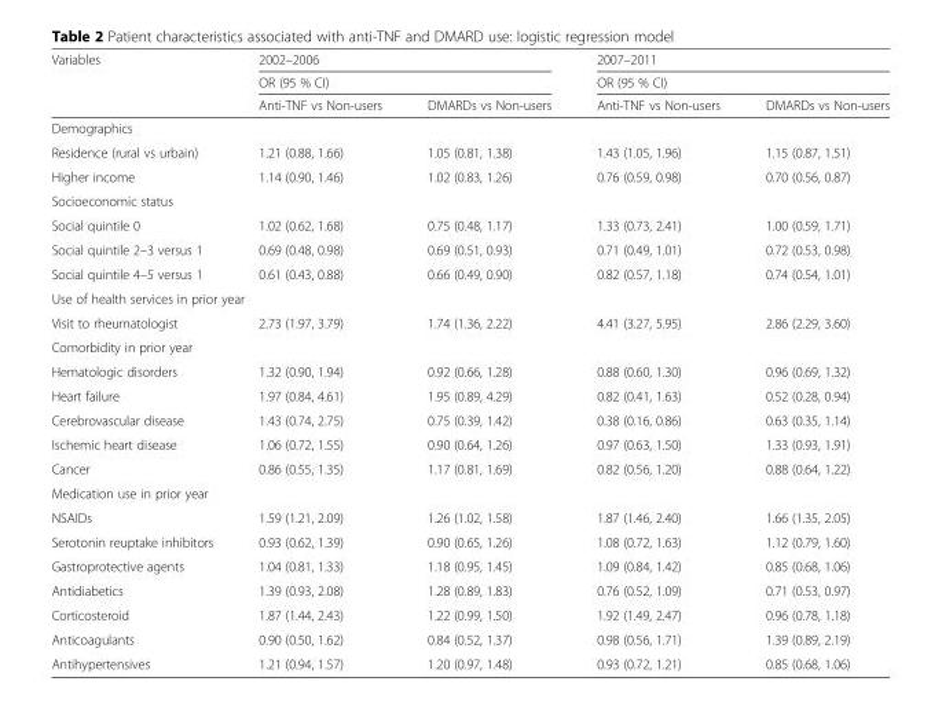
<table><thead><tr><td rowspan="3">Variables</td><td rowspan="2" colspan="2">2002–2006 OR (95 % CI)</td><td rowspan="2" colspan="2">2007–2011 OR (95 % CI)</td></tr><tr></tr><tr><td>Anti-TNF vs Non-users</td><td>DMARDs vs Non-users</td><td>Anti-TNF vs Non-users</td><td>DMARDs vs Non-users</td></tr></thead><tbody><tr><td colspan="5">Demographics</td></tr><tr><td>Residence (rural vs urbain)</td><td>1.21 (0.88, 1.66)</td><td>1.05 (0.81, 1.38)</td><td>1.43 (1.05, 1.96)</td><td>1.15 (0.87, 1.51)</td></tr><tr><td>Higher income</td><td>1.14 (0.90, 1.46)</td><td>1.02 (0.83, 1.26)</td><td>0.76 (0.59, 0.98)</td><td>0.70 (0.56, 0.87)</td></tr><tr><td colspan="5">Socioeconomic status</td></tr><tr><td>Social quintile 0</td><td>1.02 (0.62, 1.68)</td><td>0.75 (0.48, 1.17)</td><td>1.33 (0.73, 2.41)</td><td>1.00 (0.59, 1.71)</td></tr><tr><td>Social quintile 2–3 versus 1</td><td>0.69 (0.48, 0.98)</td><td>0.69 (0.51, 0.93)</td><td>0.71 (0.49, 1.01)</td><td>0.72 (0.53, 0.98)</td></tr><tr><td>Social quintile 4–5 versus 1</td><td>0.61 (0.43, 0.88)</td><td>0.66 (0.49, 0.90)</td><td>0.82 (0.57, 1.18)</td><td>0.74 (0.54, 1.01)</td></tr><tr><td colspan="5">Use of health services in prior year</td></tr><tr><td>Visit to rheumatologist</td><td>2.73 (1.97, 3.79)</td><td>1.74 (1.36, 2.22)</td><td>4.41 (3.27, 5.95)</td><td>2.86 (2.29, 3.60)</td></tr><tr><td colspan="5">Comorbidity in prior year</td></tr><tr><td>Hematologic disorders</td><td>1.32 (0.90, 1.94)</td><td>0.92 (0.66, 1.28)</td><td>0.88 (0.60, 1.30)</td><td>0.96 (0.69, 1.32)</td></tr><tr><td>Heart failure</td><td>1.97 (0.84, 4.61)</td><td>1.95 (0.89, 4.29)</td><td>0.82 (0.41, 1.63)</td><td>0.52 (0.28, 0.94)</td></tr><tr><td>Cerebrovascular disease</td><td>1.43 (0.74, 2.75)</td><td>0.75 (0.39, 1.42)</td><td>0.38 (0.16, 0.86)</td><td>0.63 (0.35, 1.14)</td></tr><tr><td>Ischemic heart disease</td><td>1.06 (0.72, 1.55)</td><td>0.90 (0.64, 1.26)</td><td>0.97 (0.63, 1.50)</td><td>1.33 (0.93, 1.91)</td></tr><tr><td>Cancer</td><td>0.86 (0.55, 1.35)</td><td>1.17 (0.81, 1.69)</td><td>0.82 (0.56, 1.20)</td><td>0.88 (0.64, 1.22)</td></tr><tr><td colspan="5">Medication use in prior year</td></tr><tr><td>NSAIDs</td><td>1.59 (1.21, 2.09)</td><td>1.26 (1.02, 1.58)</td><td>1.87 (1.46, 2.40)</td><td>1.66 (1.35, 2.05)</td></tr><tr><td>Serotonin reuptake inhibitors</td><td>0.93 (0.62, 1.39)</td><td>0.90 (0.65, 1.26)</td><td>1.08 (0.72, 1.63)</td><td>1.12 (0.79, 1.60)</td></tr><tr><td>Gastroprotective agents</td><td>1.04 (0.81, 1.33)</td><td>1.18 (0.95, 1.45)</td><td>1.09 (0.84, 1.42)</td><td>0.85 (0.68, 1.06)</td></tr><tr><td>Antidiabetics</td><td>1.39 (0.93, 2.08)</td><td>1.28 (0.89, 1.83)</td><td>0.76 (0.52, 1.09)</td><td>0.71 (0.53, 0.97)</td></tr><tr><td>Corticosteroid</td><td>1.87 (1.44, 2.43)</td><td>1.22 (0.99, 1.50)</td><td>1.92 (1.49, 2.47)</td><td>0.96 (0.78, 1.18)</td></tr><tr><td>Anticoagulants</td><td>0.90 (0.50, 1.62)</td><td>0.84 (0.52, 1.37)</td><td>0.98 (0.56, 1.71)</td><td>1.39 (0.89, 2.19)</td></tr><tr><td>Antihypertensives</td><td>1.21 (0.94, 1.57)</td><td>1.20 (0.97, 1.48)</td><td>0.93 (0.72, 1.21)</td><td>0.85 (0.68, 1.06)</td></tr></tbody></table>